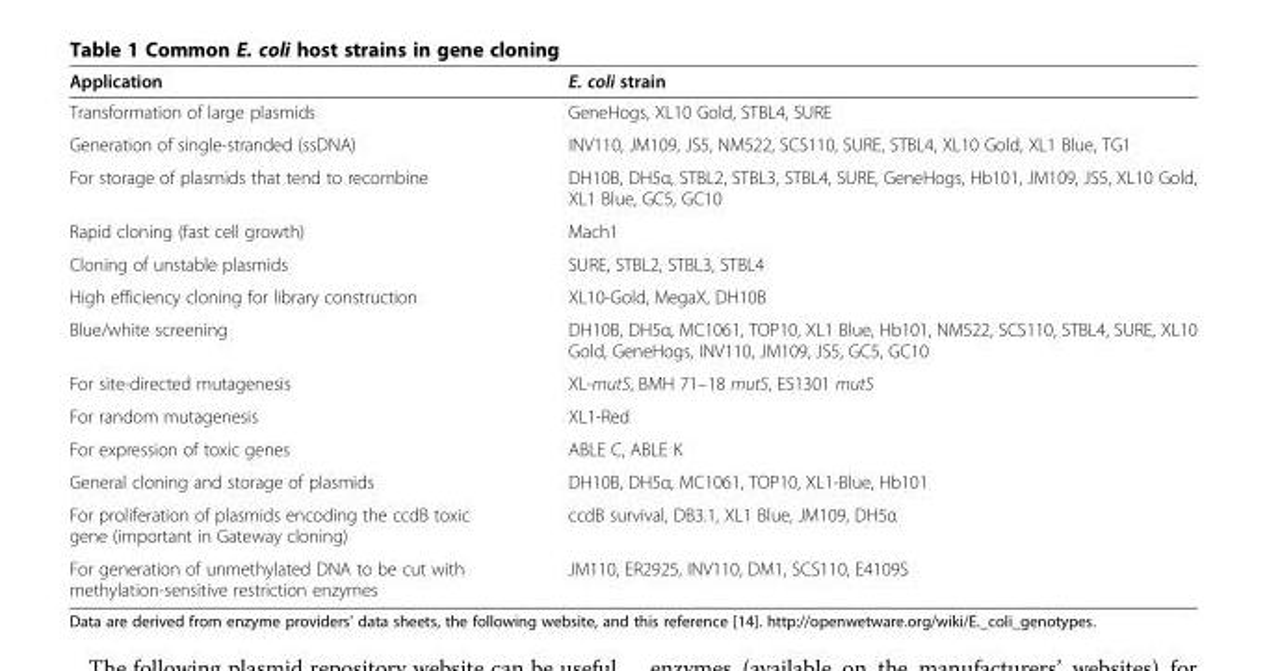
<table><thead><tr><td>Application</td><td>E. coli strain</td></tr></thead><tbody><tr><td>Transformation of large plasmids</td><td>GeneHogs, XL10 Gold, STBL4, SURE</td></tr><tr><td>Generation of single-stranded (ssDNA)</td><td>INV110, JM109, JS5, NM522, SCS110, SURE, STBL4, XL10 Gold, XL1 Blue, TG1</td></tr><tr><td>For storage of plasmids that tend to recombine</td><td>DH10B, DH5α, STBL2, STBL3, STBL4, SURE, GeneHogs, Hb101, JM109, JS5, XL10 Gold, XL1 Blue, GC5, GC10</td></tr><tr><td>Rapid cloning (fast cell growth)</td><td>Mach1</td></tr><tr><td>Cloning of unstable plasmids</td><td>SURE, STBL2, STBL3, STBL4</td></tr><tr><td>High efficiency cloning for library construction</td><td>XL10-Gold, MegaX, DH10B</td></tr><tr><td>Blue/white screening</td><td>DH10B, DH5α, MC1061, TOP10, XL1 Blue, Hb101, NM522, SCS110, STBL4, SURE, XL10 Gold, GeneHogs, INV110, JM109, JS5, GC5, GC10</td></tr><tr><td>For site-directed mutagenesis</td><td>XL-mutS, BMH 71–18 mutS, ES1301 mutS</td></tr><tr><td>For random mutagenesis</td><td>XL1-Red</td></tr><tr><td>For expression of toxic genes</td><td>ABLE C, ABLE K</td></tr><tr><td>General cloning and storage of plasmids</td><td>DH10B, DH5α, MC1061, TOP10, XL1-Blue, Hb101</td></tr><tr><td>For proliferation of plasmids encoding the ccdB toxic gene (important in Gateway cloning)</td><td>ccdB survival, DB3.1, XL1 Blue, JM109, DH5α</td></tr><tr><td>For generation of unmethylated DNA to be cut with methylation-sensitive restriction enzymes</td><td>JM110, ER2925, INV110, DM1, SCS110, E4109S</td></tr></tbody></table>